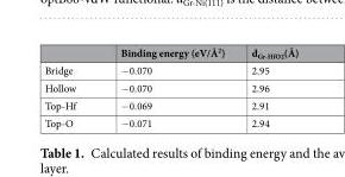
<table><thead><tr><td></td><td>Binding energy (eV/Å<sup>2</sup>)</td><td>d<sub>Gr-HfO2</sub>(Å)</td></tr></thead><tbody><tr><td>Bridge</td><td>−0.070</td><td>2.95</td></tr><tr><td>Hollow</td><td>−0.070</td><td>2.96</td></tr><tr><td>Top-Hf</td><td>−0.069</td><td>2.91</td></tr><tr><td>Top-O</td><td>−0.071</td><td>2.94</td></tr></tbody></table>